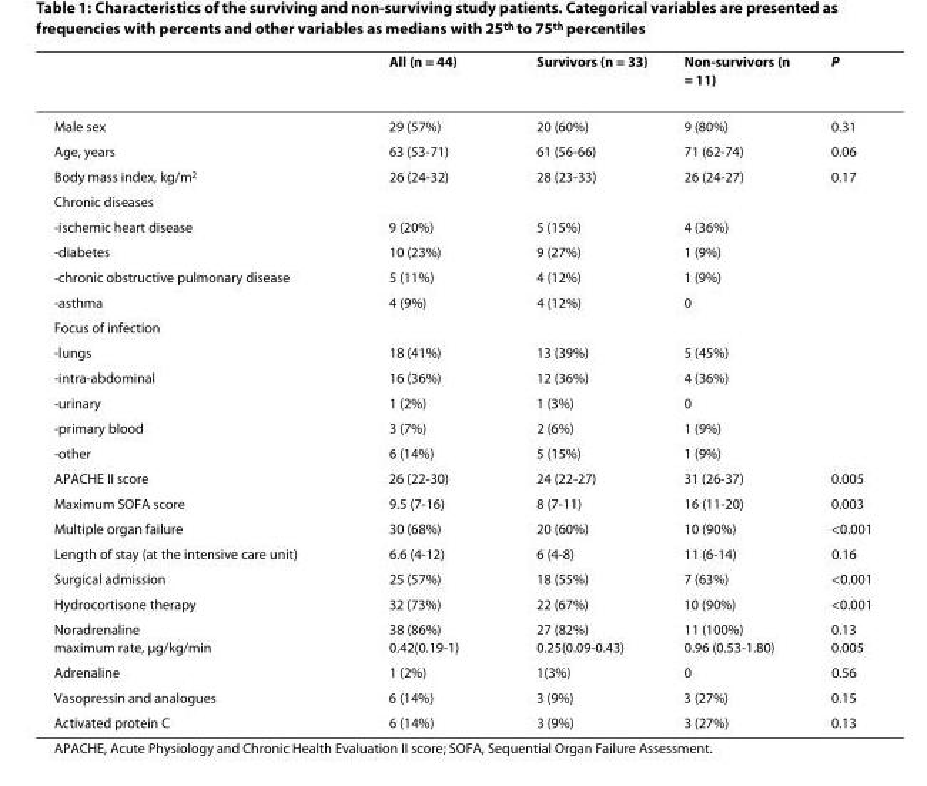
<table><thead><tr><td></td><td>All (n = 44)</td><td>Survivors (n = 33)</td><td>Non-survivors (n = 11)</td><td>P</td></tr></thead><tbody><tr><td>Male sex</td><td>29 (57%)</td><td>20 (60%)</td><td>9 (80%)</td><td>0.31</td></tr><tr><td>Age, years</td><td>63 (53-71)</td><td>61 (56-66)</td><td>71 (62-74)</td><td>0.06</td></tr><tr><td>Body mass index, kg/m<sup>2</sup></td><td>26 (24-32)</td><td>28 (23-33)</td><td>26 (24-27)</td><td>0.17</td></tr><tr><td colspan="5">Chronic diseases</td></tr><tr><td>-ischemic heart disease</td><td>9 (20%)</td><td>5 (15%)</td><td>4 (36%)</td><td></td></tr><tr><td>-diabetes</td><td>10 (23%)</td><td>9 (27%)</td><td>1 (9%)</td><td></td></tr><tr><td>-chronic obstructive pulmonary disease</td><td>5 (11%)</td><td>4 (12%)</td><td>1 (9%)</td><td></td></tr><tr><td>-asthma</td><td>4 (9%)</td><td>4 (12%)</td><td>0</td><td></td></tr><tr><td colspan="5">Focus of infection</td></tr><tr><td>-lungs</td><td>18 (41%)</td><td>13 (39%)</td><td>5 (45%)</td><td></td></tr><tr><td>-intra-abdominal</td><td>16 (36%)</td><td>12 (36%)</td><td>4 (36%)</td><td></td></tr><tr><td>-urinary</td><td>1 (2%)</td><td>1 (3%)</td><td>0</td><td></td></tr><tr><td>-primary blood</td><td>3 (7%)</td><td>2 (6%)</td><td>1 (9%)</td><td></td></tr><tr><td>-other</td><td>6 (14%)</td><td>5 (15%)</td><td>1 (9%)</td><td></td></tr><tr><td>APACHE II score</td><td>26 (22-30)</td><td>24 (22-27)</td><td>31 (26-37)</td><td>0.005</td></tr><tr><td>Maximum SOFA score</td><td>9.5 (7-16)</td><td>8 (7-11)</td><td>16 (11-20)</td><td>0.003</td></tr><tr><td>Multiple organ failure</td><td>30 (68%)</td><td>20 (60%)</td><td>10 (90%)</td><td>&lt;0.001</td></tr><tr><td>Length of stay (at the intensive care unit)</td><td>6.6 (4-12)</td><td>6 (4-8)</td><td>11 (6-14)</td><td>0.16</td></tr><tr><td>Surgical admission</td><td>25 (57%)</td><td>18 (55%)</td><td>7 (63%)</td><td>&lt;0.001</td></tr><tr><td>Hydrocortisone therapy</td><td>32 (73%)</td><td>22 (67%)</td><td>10 (90%)</td><td>&lt;0.001</td></tr><tr><td>Noradrenaline maximum rate, μg/kg/min</td><td>38 (86%) 0.42(0.19-1)</td><td>27 (82%) 0.25(0.09-0.43)</td><td>11 (100%) 0.96 (0.53-1.80)</td><td>0.13 0.005</td></tr><tr><td>Adrenaline</td><td>1 (2%)</td><td>1(3%)</td><td>0</td><td>0.56</td></tr><tr><td>Vasopressin and analogues</td><td>6 (14%)</td><td>3 (9%)</td><td>3 (27%)</td><td>0.15</td></tr><tr><td>Activated protein C</td><td>6 (14%)</td><td>3 (9%)</td><td>3 (27%)</td><td>0.13</td></tr></tbody></table>